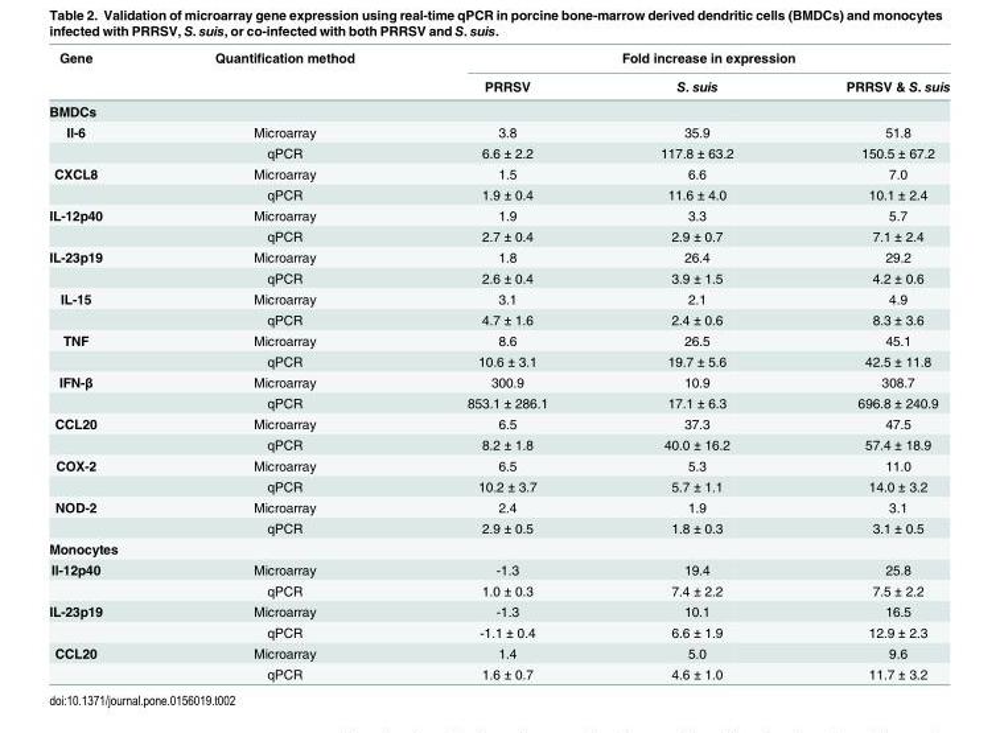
<table><thead><tr><td rowspan="2">Gene</td><td rowspan="2">Quantification method</td><td colspan="3">Fold increase in expression</td></tr><tr><td>PRRSV</td><td>S. suis</td><td>PRRSV &amp; S. suis</td></tr></thead><tbody><tr><td colspan="5">BMDCs</td></tr><tr><td rowspan="2">Il-6</td><td>Microarray</td><td>3.8</td><td>35.9</td><td>51.8</td></tr><tr><td>qPCR</td><td>6.6 ± 2.2</td><td>117.8 ± 63.2</td><td>150.5 ± 67.2</td></tr><tr><td rowspan="2">CXCL8</td><td>Microarray</td><td>1.5</td><td>6.6</td><td>7.0</td></tr><tr><td>qPCR</td><td>1.9 ± 0.4</td><td>11.6 ± 4.0</td><td>10.1 ± 2.4</td></tr><tr><td rowspan="2">IL-12p40</td><td>Microarray</td><td>1.9</td><td>3.3</td><td>5.7</td></tr><tr><td>qPCR</td><td>2.7 ± 0.4</td><td>2.9 ± 0.7</td><td>7.1 ± 2.4</td></tr><tr><td rowspan="2">IL-23p19</td><td>Microarray</td><td>1.8</td><td>26.4</td><td>29.2</td></tr><tr><td>qPCR</td><td>2.6 ± 0.4</td><td>3.9 ± 1.5</td><td>4.2 ± 0.6</td></tr><tr><td rowspan="2">IL-15</td><td>Microarray</td><td>3.1</td><td>2.1</td><td>4.9</td></tr><tr><td>qPCR</td><td>4.7 ± 1.6</td><td>2.4 ± 0.6</td><td>8.3 ± 3.6</td></tr><tr><td rowspan="2">TNF</td><td>Microarray</td><td>8.6</td><td>26.5</td><td>45.1</td></tr><tr><td>qPCR</td><td>10.6 ± 3.1</td><td>19.7 ± 5.6</td><td>42.5 ± 11.8</td></tr><tr><td rowspan="2">IFN-β</td><td>Microarray</td><td>300.9</td><td>10.9</td><td>308.7</td></tr><tr><td>qPCR</td><td>853.1 ± 286.1</td><td>17.1 ± 6.3</td><td>696.8 ± 240.9</td></tr><tr><td rowspan="2">CCL20</td><td>Microarray</td><td>6.5</td><td>37.3</td><td>47.5</td></tr><tr><td>qPCR</td><td>8.2 ± 1.8</td><td>40.0 ± 16.2</td><td>57.4 ± 18.9</td></tr><tr><td rowspan="2">COX-2</td><td>Microarray</td><td>6.5</td><td>5.3</td><td>11.0</td></tr><tr><td>qPCR</td><td>10.2 ± 3.7</td><td>5.7 ± 1.1</td><td>14.0 ± 3.2</td></tr><tr><td rowspan="2">NOD-2</td><td>Microarray</td><td>2.4</td><td>1.9</td><td>3.1</td></tr><tr><td>qPCR</td><td>2.9 ± 0.5</td><td>1.8 ± 0.3</td><td>3.1 ± 0.5</td></tr><tr><td colspan="5">Monocytes</td></tr><tr><td rowspan="2">Il-12p40</td><td>Microarray</td><td>-1.3</td><td>19.4</td><td>25.8</td></tr><tr><td>qPCR</td><td>1.0 ± 0.3</td><td>7.4 ± 2.2</td><td>7.5 ± 2.2</td></tr><tr><td rowspan="2">IL-23p19</td><td>Microarray</td><td>-1.3</td><td>10.1</td><td>16.5</td></tr><tr><td>qPCR</td><td>-1.1 ± 0.4</td><td>6.6 ± 1.9</td><td>12.9 ± 2.3</td></tr><tr><td rowspan="2">CCL20</td><td>Microarray</td><td>1.4</td><td>5.0</td><td>9.6</td></tr><tr><td>qPCR</td><td>1.6 ± 0.7</td><td>4.6 ± 1.0</td><td>11.7 ± 3.2</td></tr></tbody></table>